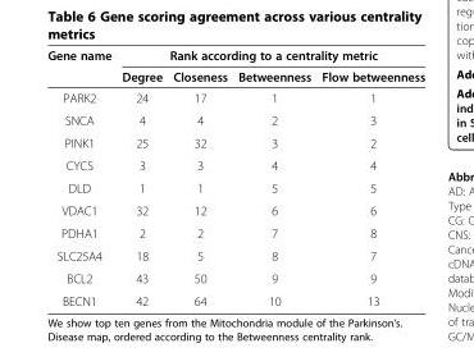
<table><thead><tr><td rowspan="2">Gene name</td><td colspan="4">Rank according to a centrality metric</td></tr><tr><td>Degree</td><td>Closeness</td><td>Betweenness</td><td>Flow betweenness</td></tr></thead><tbody><tr><td>PARK2</td><td>24</td><td>17</td><td>1</td><td>1</td></tr><tr><td>SNCA</td><td>4</td><td>4</td><td>2</td><td>3</td></tr><tr><td>PINK1</td><td>25</td><td>32</td><td>3</td><td>2</td></tr><tr><td>CYCS</td><td>3</td><td>3</td><td>4</td><td>4</td></tr><tr><td>DLD</td><td>1</td><td>1</td><td>5</td><td>5</td></tr><tr><td>VDAC1</td><td>32</td><td>12</td><td>6</td><td>6</td></tr><tr><td>PDHA1</td><td>2</td><td>2</td><td>7</td><td>8</td></tr><tr><td>SLC25A4</td><td>18</td><td>5</td><td>8</td><td>7</td></tr><tr><td>BCL2</td><td>43</td><td>50</td><td>9</td><td>9</td></tr><tr><td>BECN1</td><td>42</td><td>64</td><td>10</td><td>13</td></tr></tbody></table>